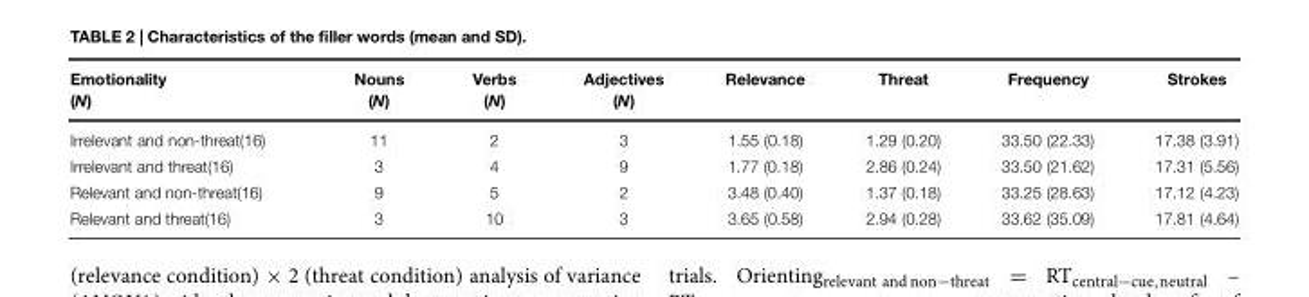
<table><thead><tr><td>Emotionality (N)</td><td>Nouns (N)</td><td>Verbs (N)</td><td>Adjectives (N)</td><td>Relevance</td><td>Threat</td><td>Frequency</td><td>Strokes</td></tr></thead><tbody><tr><td>Irrelevant and non-threat(16)</td><td>11</td><td>2</td><td>3</td><td>1.55 (0.18)</td><td>1.29 (0.20)</td><td>33.50 (22.33)</td><td>17.38 (3.91)</td></tr><tr><td>Irrelevant and threat(16)</td><td>3</td><td>4</td><td>9</td><td>1.77 (0.18)</td><td>2.86 (0.24)</td><td>33.50 (21.62)</td><td>17.31 (5.56)</td></tr><tr><td>Relevant and non-threat(16)</td><td>9</td><td>5</td><td>2</td><td>3.48 (0.40)</td><td>1.37 (0.18)</td><td>33.25 (28.63)</td><td>17.12 (4.23)</td></tr><tr><td>Relevant and threat(16)</td><td>3</td><td>10</td><td>3</td><td>3.65 (0.58)</td><td>2.94 (0.28)</td><td>33.62 (35.09)</td><td>17.81 (4.64)</td></tr></tbody></table>